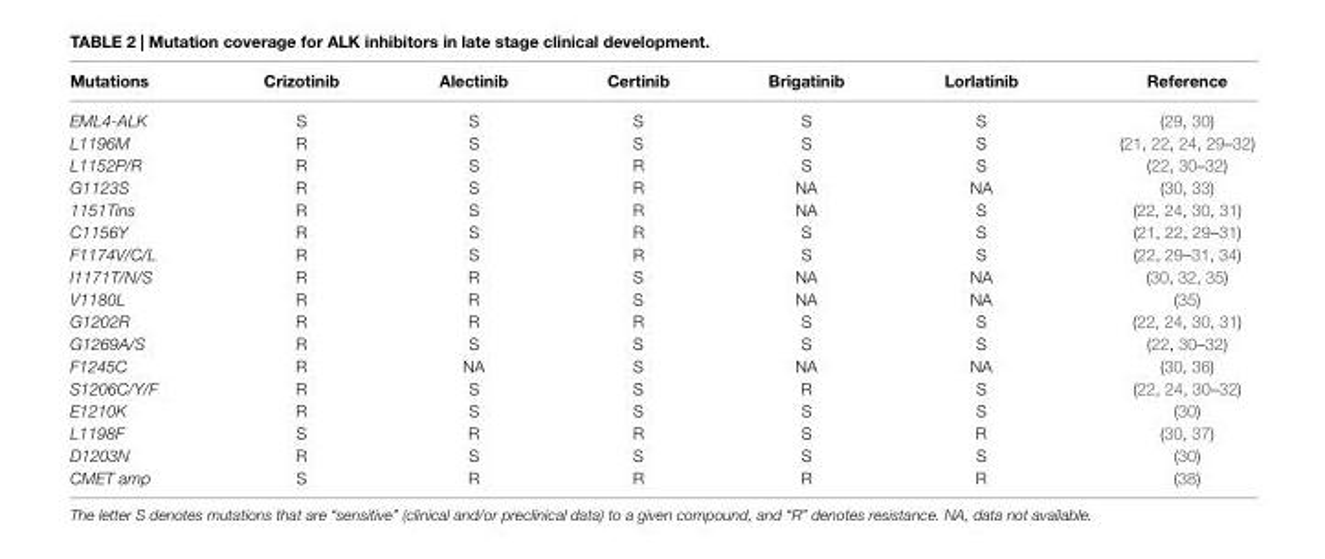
<table><thead><tr><td>Mutations</td><td>Crizotinib</td><td>Alectinib</td><td>Certinib</td><td>Brigatinib</td><td>Lorlatinib</td><td>Reference</td></tr></thead><tbody><tr><td>EML4-ALK</td><td>S</td><td>S</td><td>S</td><td>S</td><td>S</td><td>(29, 30)</td></tr><tr><td>L1196M</td><td>R</td><td>S</td><td>S</td><td>S</td><td>S</td><td>(21, 22, 24, 29–32)</td></tr><tr><td>L1152P/R</td><td>R</td><td>S</td><td>R</td><td>S</td><td>S</td><td>(22, 30–32)</td></tr><tr><td>G1123S</td><td>R</td><td>S</td><td>R</td><td>NA</td><td>NA</td><td>(30, 33)</td></tr><tr><td>1151Tins</td><td>R</td><td>S</td><td>R</td><td>NA</td><td>S</td><td>(22, 24, 30, 31)</td></tr><tr><td>C1156Y</td><td>R</td><td>S</td><td>R</td><td>S</td><td>S</td><td>(21, 22, 29–31)</td></tr><tr><td>F1174V/C/L</td><td>R</td><td>S</td><td>R</td><td>S</td><td>S</td><td>(22, 29–31, 34)</td></tr><tr><td>I1171T/N/S</td><td>R</td><td>R</td><td>S</td><td>NA</td><td>NA</td><td>(30, 32, 35)</td></tr><tr><td>V1180L</td><td>R</td><td>R</td><td>S</td><td>NA</td><td>NA</td><td>(35)</td></tr><tr><td>G1202R</td><td>R</td><td>R</td><td>R</td><td>S</td><td>S</td><td>(22, 24, 30, 31)</td></tr><tr><td>G1269A/S</td><td>R</td><td>S</td><td>S</td><td>S</td><td>S</td><td>(22, 30–32)</td></tr><tr><td>F1245C</td><td>R</td><td>NA</td><td>S</td><td>NA</td><td>NA</td><td>(30, 36)</td></tr><tr><td>S1206C/Y/F</td><td>R</td><td>S</td><td>S</td><td>R</td><td>S</td><td>(22, 24, 30–32)</td></tr><tr><td>E1210K</td><td>R</td><td>S</td><td>S</td><td>S</td><td>S</td><td>(30)</td></tr><tr><td>L1198F</td><td>S</td><td>R</td><td>R</td><td>S</td><td>R</td><td>(30, 37)</td></tr><tr><td>D1203N</td><td>R</td><td>S</td><td>S</td><td>S</td><td>S</td><td>(30)</td></tr><tr><td>CMET amp</td><td>S</td><td>R</td><td>R</td><td>R</td><td>R</td><td>(38)</td></tr></tbody></table>